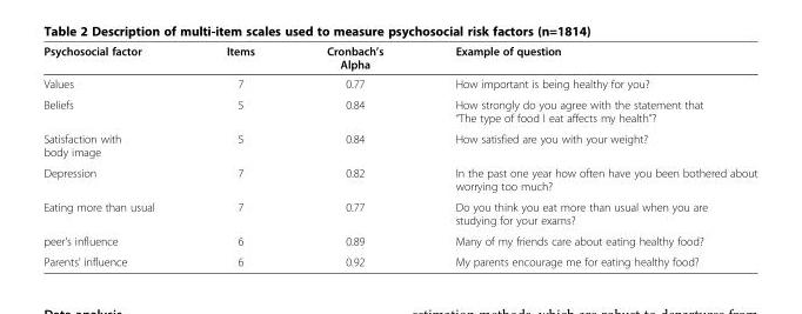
<table><thead><tr><td>Psychosocial factor</td><td>Items</td><td>Cronbach’s Alpha</td><td>Example of question</td></tr></thead><tbody><tr><td>Values</td><td>7</td><td>0.77</td><td>How important is being healthy for you?</td></tr><tr><td>Beliefs</td><td>5</td><td>0.84</td><td>How strongly do you agree with the statement that “The type of food I eat affects my health”?</td></tr><tr><td>Satisfaction with body image</td><td>5</td><td>0.84</td><td>How satisfied are you with your weight?</td></tr><tr><td>Depression</td><td>7</td><td>0.82</td><td>In the past one year how often have you been bothered about worrying too much?</td></tr><tr><td>Eating more than usual</td><td>7</td><td>0.77</td><td>Do you think you eat more than usual when you are studying for your exams?</td></tr><tr><td>peer’s influence</td><td>6</td><td>0.89</td><td>Many of my friends care about eating healthy food?</td></tr><tr><td>Parents’ influence</td><td>6</td><td>0.92</td><td>My parents encourage me for eating healthy food?</td></tr></tbody></table>